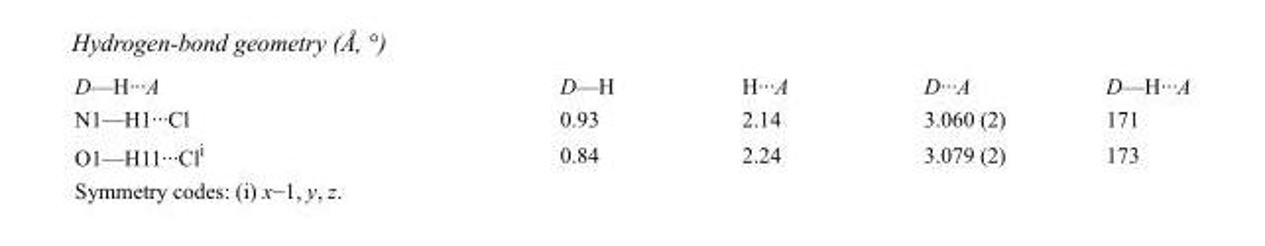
<table><tbody><tr><td>D—H···A</td><td>D—H</td><td>H···A</td><td>D···A</td><td>D—H···A</td></tr><tr><td>N1—H1···Cl</td><td>0.93</td><td>2.14</td><td>3.060 (2)</td><td>171</td></tr><tr><td>O1—H11···Cl<sup>i</sup></td><td>0.84</td><td>2.24</td><td>3.079 (2)</td><td>173</td></tr></tbody></table>